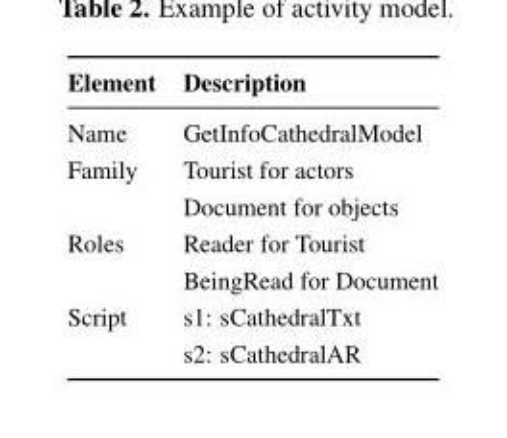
<table><thead><tr><td>Element</td><td>Description</td></tr></thead><tbody><tr><td>Name</td><td>GetInfoCathedralModel</td></tr><tr><td>Family</td><td>Tourist for actors Document for objects</td></tr><tr><td>Roles</td><td>Reader for Tourist BeingRead for Document</td></tr><tr><td>Script</td><td>s1: sCathedralTxt s2: sCathedralAR</td></tr></tbody></table>